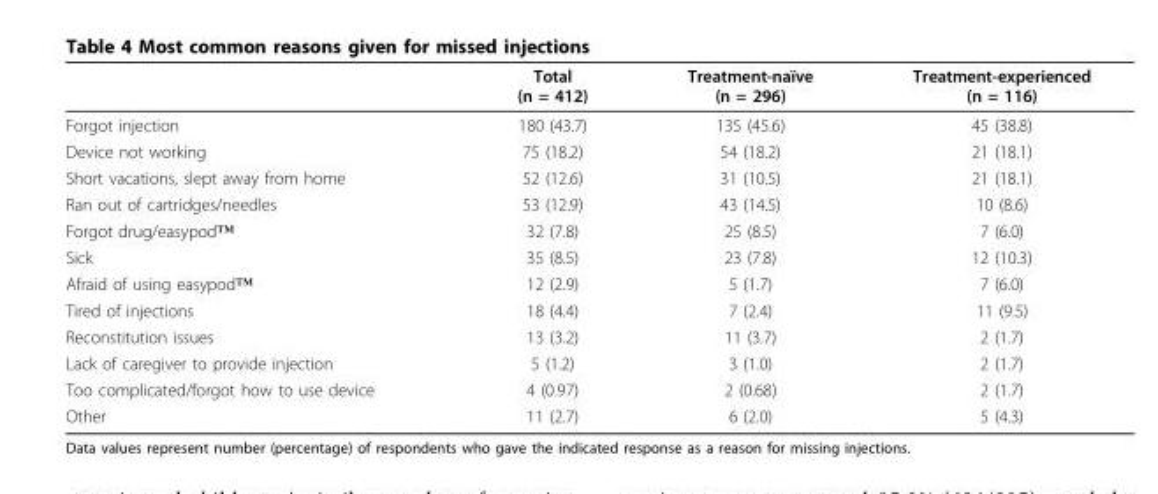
<table><thead><tr><td></td><td>Total (n = 412)</td><td>Treatment-naïve (n = 296)</td><td>Treatment-experienced (n = 116)</td></tr></thead><tbody><tr><td>Forgot injection</td><td>180 (43.7)</td><td>135 (45.6)</td><td>45 (38.8)</td></tr><tr><td>Device not working</td><td>75 (18.2)</td><td>54 (18.2)</td><td>21 (18.1)</td></tr><tr><td>Short vacations, slept away from home</td><td>52 (12.6)</td><td>31 (10.5)</td><td>21 (18.1)</td></tr><tr><td>Ran out of cartridges/needles</td><td>53 (12.9)</td><td>43 (14.5)</td><td>10 (8.6)</td></tr><tr><td>Forgot drug/easypod™</td><td>32 (7.8)</td><td>25 (8.5)</td><td>7 (6.0)</td></tr><tr><td>Sick</td><td>35 (8.5)</td><td>23 (7.8)</td><td>12 (10.3)</td></tr><tr><td>Afraid of using easypod™</td><td>12 (2.9)</td><td>5 (1.7)</td><td>7 (6.0)</td></tr><tr><td>Tired of injections</td><td>18 (4.4)</td><td>7 (2.4)</td><td>11 (9.5)</td></tr><tr><td>Reconstitution issues</td><td>13 (3.2)</td><td>11 (3.7)</td><td>2 (1.7)</td></tr><tr><td>Lack of caregiver to provide injection</td><td>5 (1.2)</td><td>3 (1.0)</td><td>2 (1.7)</td></tr><tr><td>Too complicated/forgot how to use device</td><td>4 (0.97)</td><td>2 (0.68)</td><td>2 (1.7)</td></tr><tr><td>Other</td><td>11 (2.7)</td><td>6 (2.0)</td><td>5 (4.3)</td></tr></tbody></table>